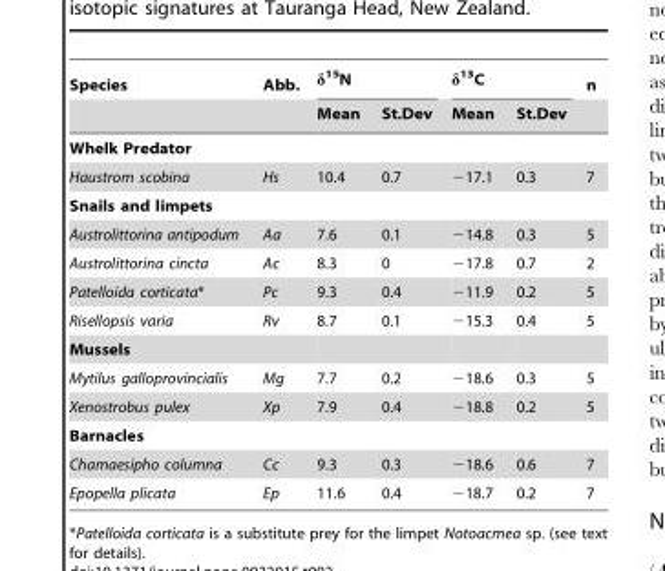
<table><thead><tr><td rowspan="2">Species</td><td rowspan="2">Abb.</td><td colspan="2">δ<sup>15</sup>N</td><td colspan="2">δ<sup>13</sup>C</td><td rowspan="2">n</td></tr><tr><td>Mean</td><td>St.Dev</td><td>Mean</td><td>St.Dev</td></tr></thead><tbody><tr><td colspan="7">Whelk Predator</td></tr><tr><td>Haustrom scobina</td><td>Hs</td><td>10.4</td><td>0.7</td><td>−17.1</td><td>0.3</td><td>7</td></tr><tr><td colspan="7">Snails and limpets</td></tr><tr><td>Austrolittorina antipodum</td><td>Aa</td><td>7.6</td><td>0.1</td><td>−14.8</td><td>0.3</td><td>5</td></tr><tr><td>Austrolittorina cincta</td><td>Ac</td><td>8.3</td><td>0</td><td>−17.8</td><td>0.7</td><td>2</td></tr><tr><td>Patelloida corticata*</td><td>Pc</td><td>9.3</td><td>0.4</td><td>−11.9</td><td>0.2</td><td>5</td></tr><tr><td>Risellopsis varia</td><td>Rv</td><td>8.7</td><td>0.1</td><td>−15.3</td><td>0.4</td><td>5</td></tr><tr><td colspan="7">Mussels</td></tr><tr><td>Mytilus galloprovincialis</td><td>Mg</td><td>7.7</td><td>0.2</td><td>−18.6</td><td>0.3</td><td>5</td></tr><tr><td>Xenostrobus pulex</td><td>Xp</td><td>7.9</td><td>0.4</td><td>−18.8</td><td>0.2</td><td>5</td></tr><tr><td colspan="7">Barnacles</td></tr><tr><td>Chamaesipho columna</td><td>Cc</td><td>9.3</td><td>0.3</td><td>−18.6</td><td>0.6</td><td>7</td></tr><tr><td>Epopella plicata</td><td>Ep</td><td>11.6</td><td>0.4</td><td>−18.7</td><td>0.2</td><td>7</td></tr></tbody></table>